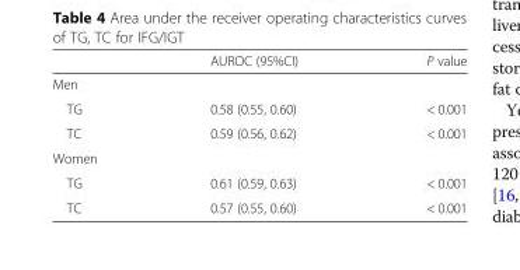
<table><thead><tr><td></td><td>AUROC (95%CI)</td><td>P value</td></tr></thead><tbody><tr><td colspan="3">Men</td></tr><tr><td>TG</td><td>0.58 (0.55, 0.60)</td><td>&lt; 0.001</td></tr><tr><td>TC</td><td>0.59 (0.56, 0.62)</td><td>&lt; 0.001</td></tr><tr><td colspan="3">Women</td></tr><tr><td>TG</td><td>0.61 (0.59, 0.63)</td><td>&lt; 0.001</td></tr><tr><td>TC</td><td>0.57 (0.55, 0.60)</td><td>&lt; 0.001</td></tr></tbody></table>